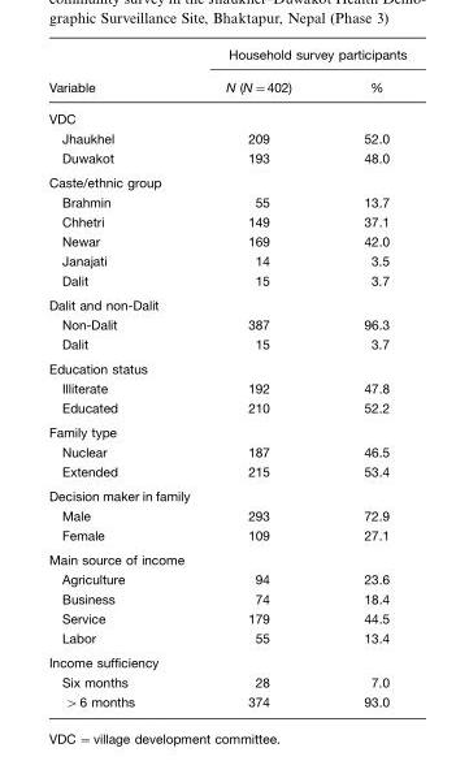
<table><thead><tr><td rowspan="2">Variable</td><td colspan="2">Household survey participants</td></tr><tr><td>N (N=402)</td><td>%</td></tr></thead><tbody><tr><td colspan="3">VDC</td></tr><tr><td>Jhaukhel</td><td>209</td><td>52.0</td></tr><tr><td>Duwakot</td><td>193</td><td>48.0</td></tr><tr><td colspan="3">Caste/ethnic group</td></tr><tr><td>Brahmin</td><td>55</td><td>13.7</td></tr><tr><td>Chhetri</td><td>149</td><td>37.1</td></tr><tr><td>Newar</td><td>169</td><td>42.0</td></tr><tr><td>Janajati</td><td>14</td><td>3.5</td></tr><tr><td>Dalit</td><td>15</td><td>3.7</td></tr><tr><td colspan="3">Dalit and non-Dalit</td></tr><tr><td>Non-Dalit</td><td>387</td><td>96.3</td></tr><tr><td>Dalit</td><td>15</td><td>3.7</td></tr><tr><td colspan="3">Education status</td></tr><tr><td>Illiterate</td><td>192</td><td>47.8</td></tr><tr><td>Educated</td><td>210</td><td>52.2</td></tr><tr><td colspan="3">Family type</td></tr><tr><td>Nuclear</td><td>187</td><td>46.5</td></tr><tr><td>Extended</td><td>215</td><td>53.4</td></tr><tr><td colspan="3">Decision maker in family</td></tr><tr><td>Male</td><td>293</td><td>72.9</td></tr><tr><td>Female</td><td>109</td><td>27.1</td></tr><tr><td colspan="3">Main source of income</td></tr><tr><td>Agriculture</td><td>94</td><td>23.6</td></tr><tr><td>Business</td><td>74</td><td>18.4</td></tr><tr><td>Service</td><td>179</td><td>44.5</td></tr><tr><td>Labor</td><td>55</td><td>13.4</td></tr><tr><td colspan="3">Income sufficiency</td></tr><tr><td>Six months</td><td>28</td><td>7.0</td></tr><tr><td>&gt;6 months</td><td>374</td><td>93.0</td></tr></tbody></table>